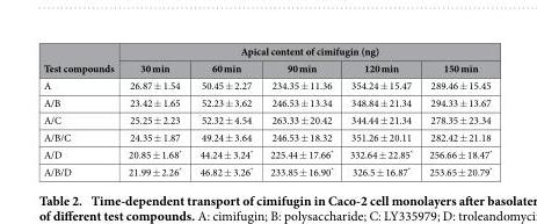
<table><thead><tr><td rowspan="2">Test compounds</td><td colspan="5">Apical content of cimifugin (ng)</td></tr><tr><td>30 min</td><td>60 min</td><td>90 min</td><td>120 min</td><td>150 min</td></tr></thead><tbody><tr><td>A</td><td>26.87 ± 1.54</td><td>50.45 ± 2.27</td><td>234.35 ± 11.36</td><td>354.24 ± 15.47</td><td>289.46 ± 15.45</td></tr><tr><td>A/B</td><td>23.42 ± 1.65</td><td>52.23 ± 3.62</td><td>246.53 ± 13.34</td><td>348.84 ± 21.34</td><td>294.33 ± 13.67</td></tr><tr><td>A/C</td><td>25.25 ± 2.23</td><td>52.32 ± 4.54</td><td>263.33 ± 20.42</td><td>344.44 ± 21.34</td><td>278.35 ± 23.34</td></tr><tr><td>A/B/C</td><td>24.35 ± 1.87</td><td>49.24 ± 3.64</td><td>246.53 ± 18.32</td><td>351.26 ± 20.11</td><td>282.42 ± 21.18</td></tr><tr><td>A/D</td><td>20.85 ± 1.68*</td><td>44.24 ± 3.24*</td><td>225.44 ± 17.66*</td><td>332.64 ± 22.85*</td><td>256.66 ± 18.47*</td></tr><tr><td>A/B/D</td><td>21.99 ± 2.26*</td><td>46.82 ± 3.26*</td><td>233.85 ± 16.90*</td><td>326.5 ± 16.87*</td><td>253.65 ± 20.79*</td></tr></tbody></table>